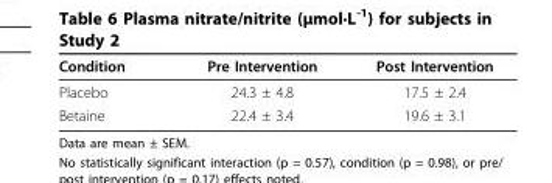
<table><thead><tr><td>Condition</td><td>Pre Intervention</td><td>Post Intervention</td></tr></thead><tbody><tr><td>Placebo</td><td>24.3 ± 4.8</td><td>17.5 ± 2.4</td></tr><tr><td>Betaine</td><td>22.4 ± 3.4</td><td>19.6 ± 3.1</td></tr></tbody></table>